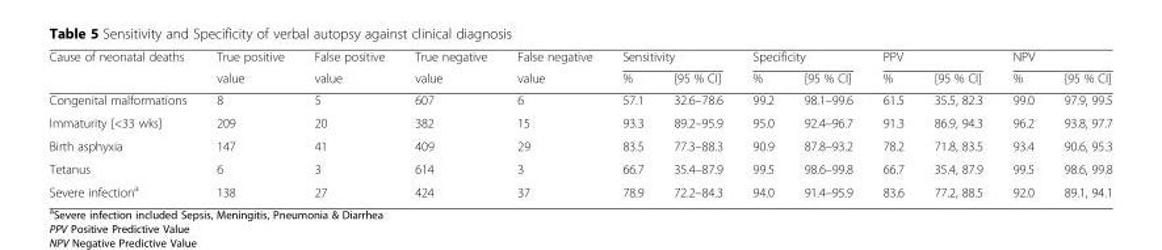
<table><thead><tr><td rowspan="2">Cause of neonatal deaths</td><td rowspan="2">True positive value</td><td rowspan="2">False positive value</td><td rowspan="2">True negative value</td><td rowspan="2">False negative value</td><td colspan="2">Sensitivity</td><td colspan="2">Specificity</td><td colspan="2">PPV</td><td colspan="2">NPV</td></tr><tr><td>%</td><td>[95 % CI]</td><td>%</td><td>[95 % CI]</td><td>%</td><td>[95 % CI]</td><td>%</td><td>[95 % CI]</td></tr></thead><tbody><tr><td>Congenital malformations</td><td>8</td><td>5</td><td>607</td><td>6</td><td>57.1</td><td>32.6–78.6</td><td>99.2</td><td>98.1–99.6</td><td>61.5</td><td>35.5, 82.3</td><td>99.0</td><td>97.9, 99.5</td></tr><tr><td>Immaturity [&lt;33 wks]</td><td>209</td><td>20</td><td>382</td><td>15</td><td>93.3</td><td>89.2–95.9</td><td>95.0</td><td>92.4–96.7</td><td>91.3</td><td>86.9, 94.3</td><td>96.2</td><td>93.8, 97.7</td></tr><tr><td>Birth asphyxia</td><td>147</td><td>41</td><td>409</td><td>29</td><td>83.5</td><td>77.3–88.3</td><td>90.9</td><td>87.8–93.2</td><td>78.2</td><td>71.8, 83.5</td><td>93.4</td><td>90.6, 95.3</td></tr><tr><td>Tetanus</td><td>6</td><td>3</td><td>614</td><td>3</td><td>66.7</td><td>35.4–87.9</td><td>99.5</td><td>98.6–99.8</td><td>66.7</td><td>35.4, 87.9</td><td>99.5</td><td>98.6, 99.8</td></tr><tr><td>Severe infection<sup>a</sup></td><td>138</td><td>27</td><td>424</td><td>37</td><td>78.9</td><td>72.2–84.3</td><td>94.0</td><td>91.4–95.9</td><td>83.6</td><td>77.2, 88.5</td><td>92.0</td><td>89.1, 94.1</td></tr></tbody></table>